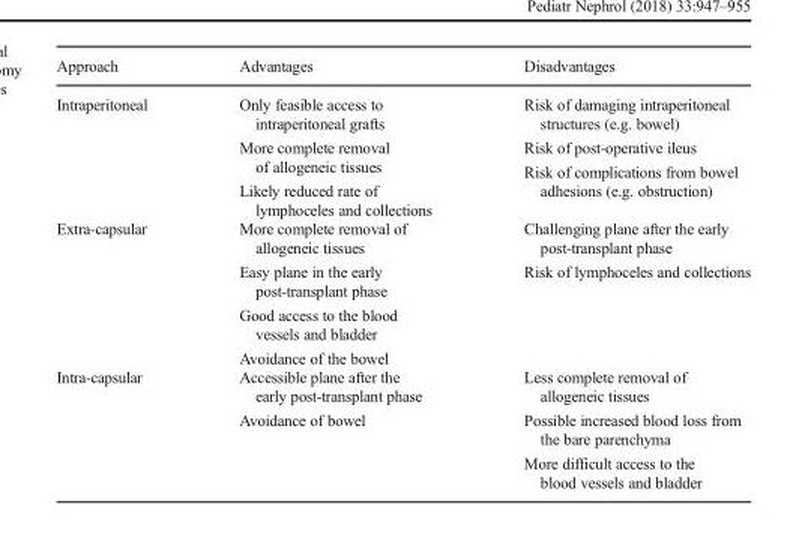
<table><thead><tr><td>Approach</td><td>Advantages</td><td>Disadvantages</td></tr></thead><tbody><tr><td>Intraperitoneal</td><td>Only feasible access to intraperitoneal grafts More complete removal of allogeneic tissues Likely reduced rate of lymphoceles and collections</td><td>Risk of damaging intraperitoneal structures (e.g. bowel) Risk of post-operative ileus Risk of complications from bowel adhesions (e.g. obstruction)</td></tr><tr><td>Extra-capsular</td><td>More complete removal of allogeneic tissues Easy plane in the early post-transplant phase Good access to the blood vessels and bladder Avoidance of the bowel</td><td>Challenging plane after the early post-transplant phase Risk of lymphoceles and collections</td></tr><tr><td>Intra-capsular</td><td>Accessible plane after the early post-transplant phase Avoidance of bowel</td><td>Less complete removal of allogeneic tissues Possible increased blood loss from the bare parenchyma More difficult access to the blood vessels and bladder</td></tr></tbody></table>